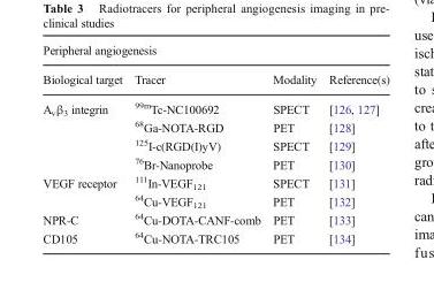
<table><thead><tr><td colspan="4">Peripheral angiogenesis</td></tr><tr><td>Biological target</td><td>Tracer</td><td>Modality</td><td>Reference(s)</td></tr></thead><tbody><tr><td rowspan="4">A<sub>v</sub>β<sub>3</sub> integrin</td><td><sup>99m</sup>Tc-NC100692</td><td>SPECT</td><td>[126, 127]</td></tr><tr><td><sup>68</sup>Ga-NOTA-RGD</td><td>PET</td><td>[128]</td></tr><tr><td><sup>125</sup>I-c(RGD(I)yV)</td><td>SPECT</td><td>[129]</td></tr><tr><td><sup>76</sup>Br-Nanoprobe</td><td>PET</td><td>[130]</td></tr><tr><td rowspan="2">VEGF receptor</td><td><sup>111</sup>In-VEGF<sub>121</sub></td><td>SPECT</td><td>[131]</td></tr><tr><td><sup>64</sup>Cu-VEGF<sub>121</sub></td><td>PET</td><td>[132]</td></tr><tr><td>NPR-C</td><td><sup>64</sup>Cu-DOTA-CANF-comb</td><td>PET</td><td>[133]</td></tr><tr><td>CD105</td><td><sup>64</sup>Cu-NOTA-TRC105</td><td>PET</td><td>[134]</td></tr></tbody></table>